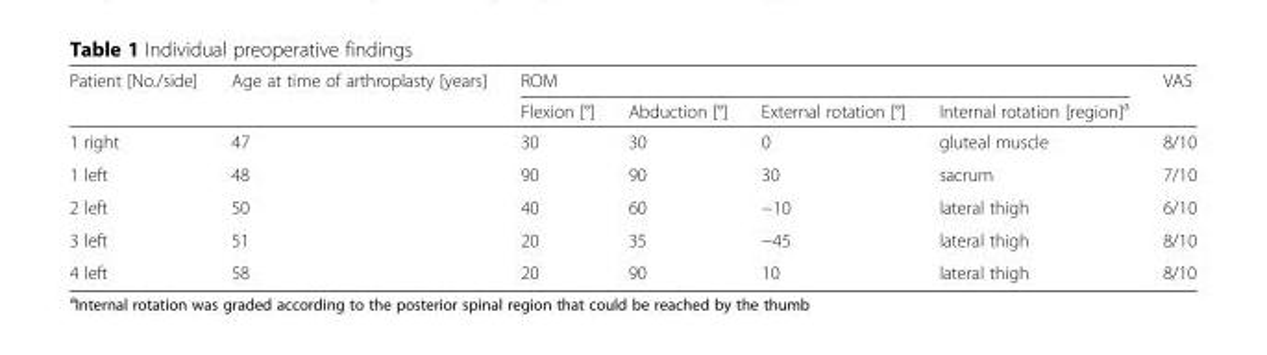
<table><thead><tr><td rowspan="2">Patient [No./side]</td><td rowspan="2">Age at time of arthroplasty [years]</td><td colspan="4">ROM</td><td rowspan="2">VAS</td></tr><tr><td>Flexion [°]</td><td>Abduction [°]</td><td>External rotation [°]</td><td>Internal rotation [region]<sup>a</sup></td></tr></thead><tbody><tr><td>1 right</td><td>47</td><td>30</td><td>30</td><td>0</td><td>gluteal muscle</td><td>8/10</td></tr><tr><td>1 left</td><td>48</td><td>90</td><td>90</td><td>30</td><td>sacrum</td><td>7/10</td></tr><tr><td>2 left</td><td>50</td><td>40</td><td>60</td><td>−10</td><td>lateral thigh</td><td>6/10</td></tr><tr><td>3 left</td><td>51</td><td>20</td><td>35</td><td>−45</td><td>lateral thigh</td><td>8/10</td></tr><tr><td>4 left</td><td>58</td><td>20</td><td>90</td><td>10</td><td>lateral thigh</td><td>8/10</td></tr></tbody></table>